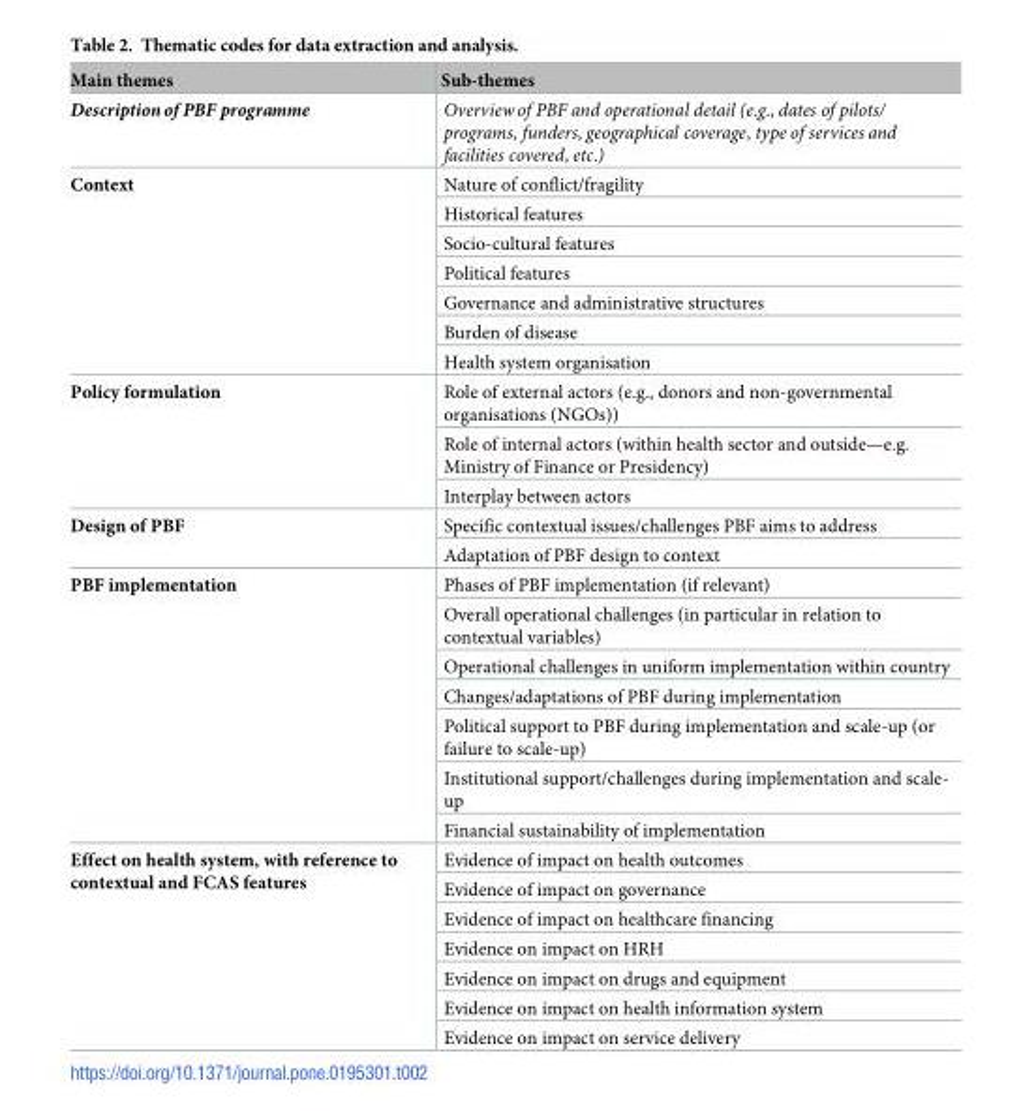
<table><thead><tr><td>Main themes</td><td>Sub-themes</td></tr></thead><tbody><tr><td>Description of PBF programme</td><td>Overviewof PBF and operational detail (e.g., dates of pilots/ programs, funders, geographical coverage, type of services and facilities covered, etc.)</td></tr><tr><td rowspan="7">Context</td><td>Nature of conflict/fragility</td></tr><tr><td>Historical features</td></tr><tr><td>Socio-cultural features</td></tr><tr><td>Political features</td></tr><tr><td>Governance and administrative structures</td></tr><tr><td>Burden of disease</td></tr><tr><td>Health system organisation</td></tr><tr><td rowspan="3">Policy formulation</td><td>Role of external actors (e.g., donors and non-governmental organisations (NGOs))</td></tr><tr><td>Role of internal actors (within health sector and outside—e.g. Ministry of Finance or Presidency)</td></tr><tr><td>Interplay between actors</td></tr><tr><td rowspan="2">Design of PBF</td><td>Specific contextual issues/challenges PBF aims to address</td></tr><tr><td>Adaptation of PBF design to context</td></tr><tr><td rowspan="7">PBF implementation</td><td>Phases of PBF implementation (if relevant)</td></tr><tr><td>Overall operational challenges (in particular in relation to contextual variables)</td></tr><tr><td>Operational challenges in uniform implementation within country</td></tr><tr><td>Changes/adaptations of PBF during implementation</td></tr><tr><td>Political support to PBF during implementation and scale-up (or failure to scale-up)</td></tr><tr><td>Institutional support/challenges during implementation and scale- up</td></tr><tr><td>Financial sustainability of implementation</td></tr><tr><td rowspan="7">Effect on health system, with reference to contextual and FCAS features</td><td>Evidence of impact on health outcomes</td></tr><tr><td>Evidence of impact on governance</td></tr><tr><td>Evidence of impact on healthcare financing</td></tr><tr><td>Evidence on impact on HRH</td></tr><tr><td>Evidence on impact on drugs and equipment</td></tr><tr><td>Evidence on impact on health information system</td></tr><tr><td>Evidence on impact on service delivery</td></tr></tbody></table>